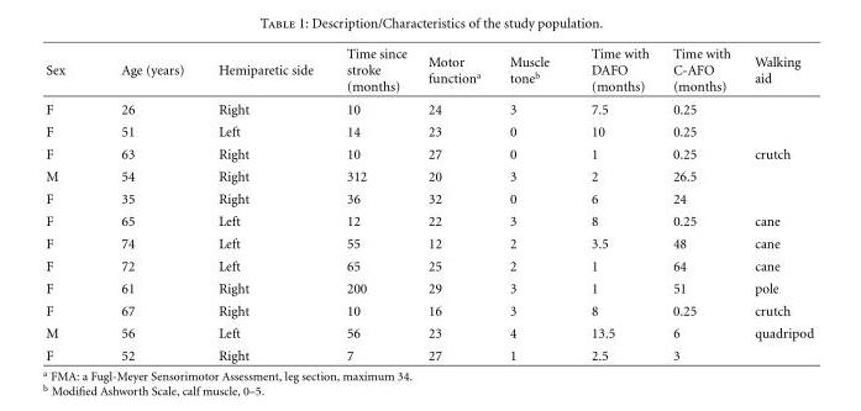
<table><thead><tr><td>Sex</td><td>Age (years)</td><td>Hemiparetic side</td><td>Time since stroke (months)</td><td>Motor function<sup>a</sup></td><td>Muscle tone<sup>b</sup></td><td>Time with DAFO (months)</td><td>Time with C-AFO (months)</td><td>Walking aid</td></tr></thead><tbody><tr><td>F</td><td>26</td><td>Right</td><td>10</td><td>24</td><td>3</td><td>7.5</td><td>0.25</td><td></td></tr><tr><td>F</td><td>51</td><td>Left</td><td>14</td><td>23</td><td>0</td><td>10</td><td>0.25</td><td></td></tr><tr><td>F</td><td>63</td><td>Right</td><td>10</td><td>27</td><td>0</td><td>1</td><td>0.25</td><td>crutch</td></tr><tr><td>M</td><td>54</td><td>Right</td><td>312</td><td>20</td><td>3</td><td>2</td><td>26.5</td><td></td></tr><tr><td>F</td><td>35</td><td>Right</td><td>36</td><td>32</td><td>0</td><td>6</td><td>24</td><td></td></tr><tr><td>F</td><td>65</td><td>Left</td><td>12</td><td>22</td><td>3</td><td>8</td><td>0.25</td><td>cane</td></tr><tr><td>F</td><td>74</td><td>Left</td><td>55</td><td>12</td><td>2</td><td>3.5</td><td>48</td><td>cane</td></tr><tr><td>F</td><td>72</td><td>Left</td><td>65</td><td>25</td><td>2</td><td>1</td><td>64</td><td>cane</td></tr><tr><td>F</td><td>61</td><td>Right</td><td>200</td><td>29</td><td>3</td><td>1</td><td>51</td><td>pole</td></tr><tr><td>F</td><td>67</td><td>Right</td><td>10</td><td>16</td><td>3</td><td>8</td><td>0.25</td><td>crutch</td></tr><tr><td>M</td><td>56</td><td>Left</td><td>56</td><td>23</td><td>4</td><td>13.5</td><td>6</td><td>quadripod</td></tr><tr><td>F</td><td>52</td><td>Right</td><td>7</td><td>27</td><td>1</td><td>2.5</td><td>3</td><td></td></tr></tbody></table>